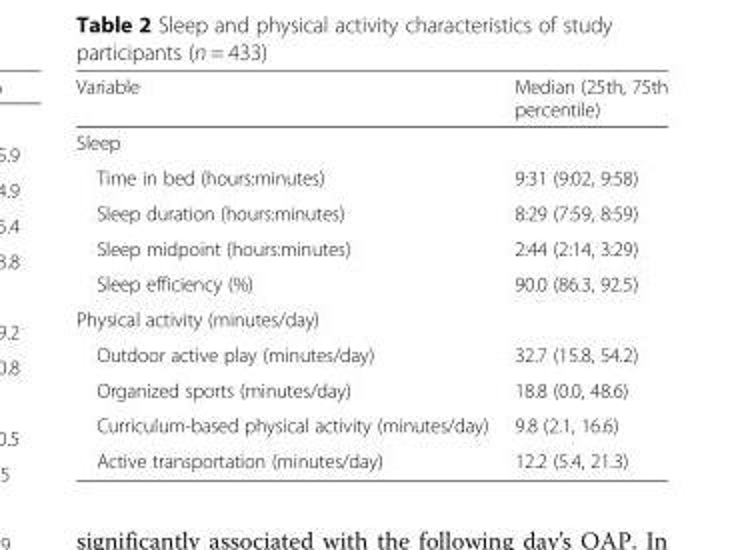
<table><thead><tr><td>Variable</td><td>Median (25th, 75th percentile)</td></tr></thead><tbody><tr><td colspan="2">Sleep</td></tr><tr><td>Time in bed (hours:minutes)</td><td>9:31 (9:02, 9:58)</td></tr><tr><td>Sleep duration (hours:minutes)</td><td>8:29 (7:59, 8:59)</td></tr><tr><td>Sleep midpoint (hours:minutes)</td><td>2:44 (2:14, 3:29)</td></tr><tr><td>Sleep efficiency (%)</td><td>90.0 (86.3, 92.5)</td></tr><tr><td colspan="2">Physical activity (minutes/day)</td></tr><tr><td>Outdoor active play (minutes/day)</td><td>32.7 (15.8, 54.2)</td></tr><tr><td>Organized sports (minutes/day)</td><td>18.8 (0.0, 48.6)</td></tr><tr><td>Curriculum-based physical activity (minutes/day)</td><td>9.8 (2.1, 16.6)</td></tr><tr><td>Active transportation (minutes/day)</td><td>12.2 (5.4, 21.3)</td></tr></tbody></table>